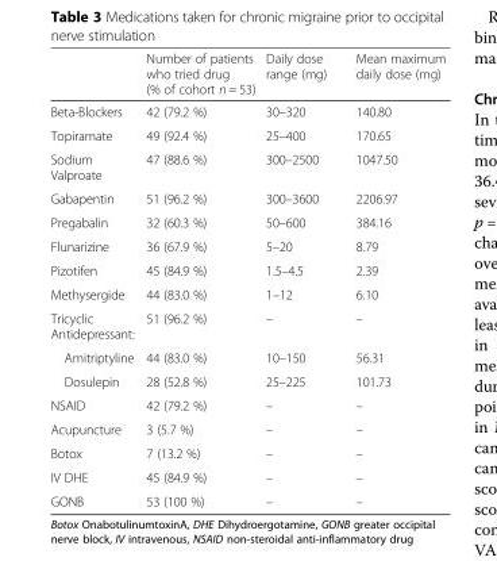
<table><thead><tr><td></td><td>Number of patients who tried drug (% of cohort n = 53)</td><td>Daily dose range (mg)</td><td>Mean maximum daily dose (mg)</td></tr></thead><tbody><tr><td>Beta-Blockers</td><td>42 (79.2 %)</td><td>30–320</td><td>140.80</td></tr><tr><td>Topiramate</td><td>49 (92.4 %)</td><td>25–400</td><td>170.65</td></tr><tr><td>Sodium Valproate</td><td>47 (88.6 %)</td><td>300–2500</td><td>1047.50</td></tr><tr><td>Gabapentin</td><td>51 (96.2 %)</td><td>300–3600</td><td>2206.97</td></tr><tr><td>Pregabalin</td><td>32 (60.3 %)</td><td>50–600</td><td>384.16</td></tr><tr><td>Flunarizine</td><td>36 (67.9 %)</td><td>5–20</td><td>8.79</td></tr><tr><td>Pizotifen</td><td>45 (84.9 %)</td><td>1.5–4.5</td><td>2.39</td></tr><tr><td>Methysergide</td><td>44 (83.0 %)</td><td>1–12</td><td>6.10</td></tr><tr><td>Tricyclic Antidepressant:</td><td>51 (96.2 %)</td><td>–</td><td>–</td></tr><tr><td>Amitriptyline</td><td>44 (83.0 %)</td><td>10–150</td><td>56.31</td></tr><tr><td>Dosulepin</td><td>28 (52.8 %)</td><td>25–225</td><td>101.73</td></tr><tr><td>NSAID</td><td>42 (79.2 %)</td><td>–</td><td>–</td></tr><tr><td>Acupuncture</td><td>3 (5.7 %)</td><td>–</td><td>–</td></tr><tr><td>Botox</td><td>7 (13.2 %)</td><td>–</td><td>–</td></tr><tr><td>IV DHE</td><td>45 (84.9 %)</td><td>–</td><td>–</td></tr><tr><td>GONB</td><td>53 (100 %)</td><td>–</td><td>–</td></tr></tbody></table>